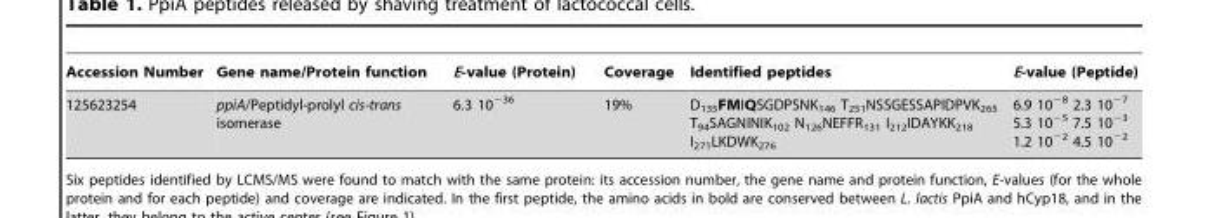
<table><thead><tr><td>Accession Number</td><td>Gene name/Protein function</td><td>E-value (Protein)</td><td>Coverage</td><td>Identified peptides</td><td>E-value (Peptide)</td></tr></thead><tbody><tr><td>125623254</td><td>ppiA/Peptidyl-prolyl cis-trans isomerase</td><td>6.3 10<sup>−36</sup></td><td>19%</td><td>D<sub>135</sub>FMIQSGDPSNK<sub>146</sub> T<sub>251</sub>NSSGESSAPIDPVK<sub>265</sub> T<sub>94</sub>SAGNINIK<sub>102</sub> N<sub>126</sub>NEFFR<sub>131</sub> I<sub>212</sub>IDAYKK<sub>218</sub> I<sub>271</sub>LKDWK<sub>276</sub></td><td>6.9 10<sup>−8</sup> 2.3 10<sup>−7</sup> 5.3 10<sup>−5</sup> 7.5 10<sup>−3</sup> 1.2 10<sup>−2</sup> 4.5 10<sup>−2</sup></td></tr></tbody></table>